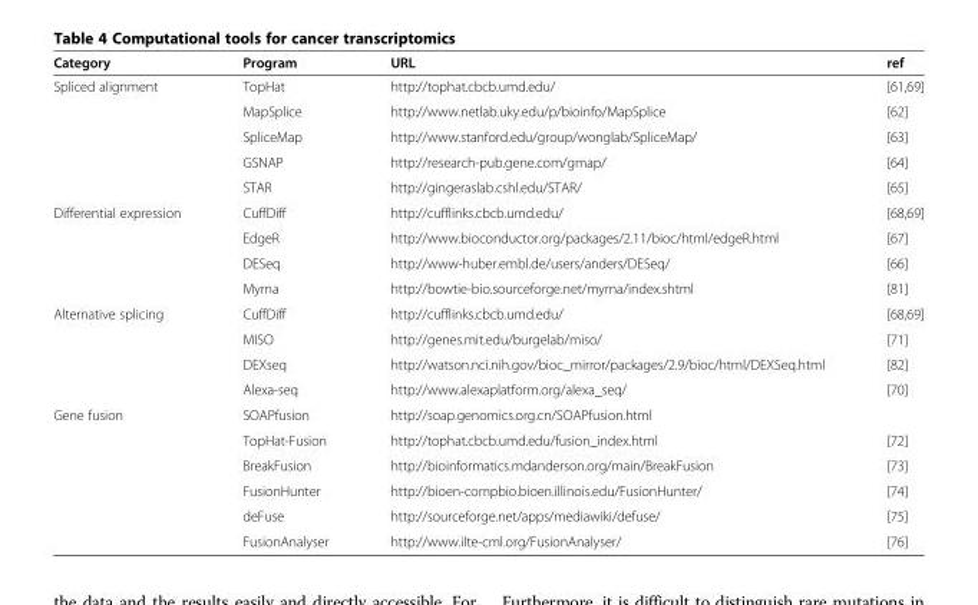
<table><thead><tr><td>Category</td><td>Program</td><td>URL</td><td>ref</td></tr></thead><tbody><tr><td rowspan="5">Spliced alignment</td><td>TopHat</td><td>http://tophat.cbcb.umd.edu/</td><td>[61,69]</td></tr><tr><td>MapSplice</td><td>http://www.netlab.uky.edu/p/bioinfo/MapSplice</td><td>[62]</td></tr><tr><td>SpliceMap</td><td>http://www.stanford.edu/group/wonglab/SpliceMap/</td><td>[63]</td></tr><tr><td>GSNAP</td><td>http://research-pub.gene.com/gmap/</td><td>[64]</td></tr><tr><td>STAR</td><td>http://gingeraslab.cshl.edu/STAR/</td><td>[65]</td></tr><tr><td rowspan="4">Differential expression</td><td>CuffDiff</td><td>http://cufflinks.cbcb.umd.edu/</td><td>[68,69]</td></tr><tr><td>EdgeR</td><td>http://www.bioconductor.org/packages/2.11/bioc/html/edgeR.html</td><td>[67]</td></tr><tr><td>DESeq</td><td>http://www-huber.embl.de/users/anders/DESeq/</td><td>[66]</td></tr><tr><td>Myrna</td><td>http://bowtie-bio.sourceforge.net/myrna/index.shtml</td><td>[81]</td></tr><tr><td rowspan="4">Alternative splicing</td><td>CuffDiff</td><td>http://cufflinks.cbcb.umd.edu/</td><td>[68,69]</td></tr><tr><td>MISO</td><td>http://genes.mit.edu/burgelab/miso/</td><td>[71]</td></tr><tr><td>DEXseq</td><td>http://watson.nci.nih.gov/bioc_mirror/packages/2.9/bioc/html/DEXSeq.html</td><td>[82]</td></tr><tr><td>Alexa-seq</td><td>http://www.alexaplatform.org/alexa_seq/</td><td>[70]</td></tr><tr><td rowspan="6">Gene fusion</td><td>SOAPfusion</td><td>http://soap.genomics.org.cn/SOAPfusion.html</td><td></td></tr><tr><td>TopHat-Fusion</td><td>http://tophat.cbcb.umd.edu/fusion_index.html</td><td>[72]</td></tr><tr><td>BreakFusion</td><td>http://bioinformatics.mdanderson.org/main/BreakFusion</td><td>[73]</td></tr><tr><td>FusionHunter</td><td>http://bioen-compbio.bioen.illinois.edu/FusionHunter/</td><td>[74]</td></tr><tr><td>deFuse</td><td>http://sourceforge.net/apps/mediawiki/defuse/</td><td>[75]</td></tr><tr><td>FusionAnalyser</td><td>http://www.ilte-cml.org/FusionAnalyser/</td><td>[76]</td></tr></tbody></table>